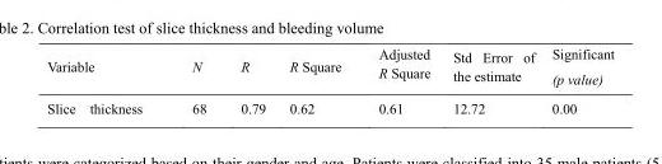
<table><thead><tr><td>Variable</td><td>N</td><td>R</td><td>R Square</td><td>Adjusted R Square</td><td>Std Error of the estimate</td><td>Significant (p value)</td></tr></thead><tbody><tr><td>Slice thickness</td><td>68</td><td>0.79</td><td>0.62</td><td>0.61</td><td>12.72</td><td>0.00</td></tr></tbody></table>